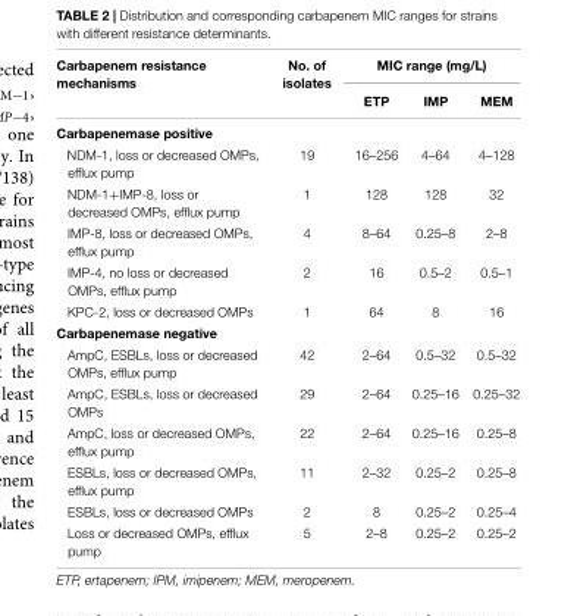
<table><thead><tr><td rowspan="2">Carbapenem resistance mechanisms</td><td rowspan="2">No. of isolates</td><td colspan="3">MIC range (mg/L)</td></tr><tr><td>ETP</td><td>IMP</td><td>MEM</td></tr></thead><tbody><tr><td colspan="5">Carbapenemase positive</td></tr><tr><td>NDM-1, loss or decreased OMPs, efflux pump</td><td>19</td><td>16–256</td><td>4–64</td><td>4–128</td></tr><tr><td>NDM-1+IMP-8, loss or decreased OMPs, efflux pump</td><td>1</td><td>128</td><td>128</td><td>32</td></tr><tr><td>IMP-8, loss or decreased OMPs, efflux pump</td><td>4</td><td>8–64</td><td>0.25–8</td><td>2–8</td></tr><tr><td>IMP-4, no loss or decreased OMPs, efflux pump</td><td>2</td><td>16</td><td>0.5–2</td><td>0.5–1</td></tr><tr><td>KPC-2, loss or decreased OMPs</td><td>1</td><td>64</td><td>8</td><td>16</td></tr><tr><td colspan="5">Carbapenemase negative</td></tr><tr><td>AmpC, ESBLs, loss or decreased OMPs, efflux pump</td><td>42</td><td>2–64</td><td>0.5–32</td><td>0.5–32</td></tr><tr><td>AmpC, ESBLs, loss or decreased OMPs</td><td>29</td><td>2–64</td><td>0.25–16</td><td>0.25–32</td></tr><tr><td>AmpC, loss or decreased OMPs, efflux pump</td><td>22</td><td>2–64</td><td>0.25–16</td><td>0.25–8</td></tr><tr><td>ESBLs, loss or decreased OMPs, efflux pump</td><td>11</td><td>2–32</td><td>0.25–2</td><td>0.25–8</td></tr><tr><td>ESBLs, loss or decreased OMPs</td><td>2</td><td>8</td><td>0.25–2</td><td>0.25–4</td></tr><tr><td>Loss or decreased OMPs, efflux pump</td><td>5</td><td>2–8</td><td>0.25–2</td><td>0.25–2</td></tr></tbody></table>